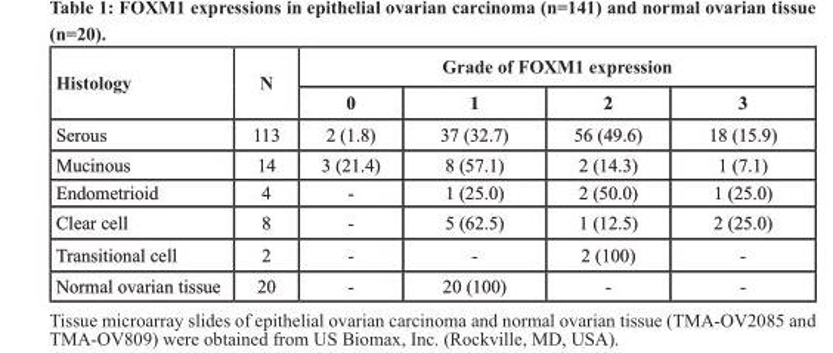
<table><thead><tr><td rowspan="2">Histology</td><td rowspan="2">N</td><td colspan="4">Grade of FOXM1 expression</td></tr><tr><td>0</td><td>1</td><td>2</td><td>3</td></tr></thead><tbody><tr><td>Serous</td><td>113</td><td>2 (1.8)</td><td>37 (32.7)</td><td>56 (49.6)</td><td>18 (15.9)</td></tr><tr><td>Mucinous</td><td>14</td><td>3 (21.4)</td><td>8 (57.1)</td><td>2 (14.3)</td><td>1 (7.1)</td></tr><tr><td>Endometrioid</td><td>4</td><td>-</td><td>1 (25.0)</td><td>2 (50.0)</td><td>1 (25.0)</td></tr><tr><td>Clear cell</td><td>8</td><td>-</td><td>5 (62.5)</td><td>1 (12.5)</td><td>2 (25.0)</td></tr><tr><td>Transitional cell</td><td>2</td><td>-</td><td>-</td><td>2 (100)</td><td>-</td></tr><tr><td>Normal ovarian tissue</td><td>20</td><td>-</td><td>20 (100)</td><td>-</td><td>-</td></tr></tbody></table>